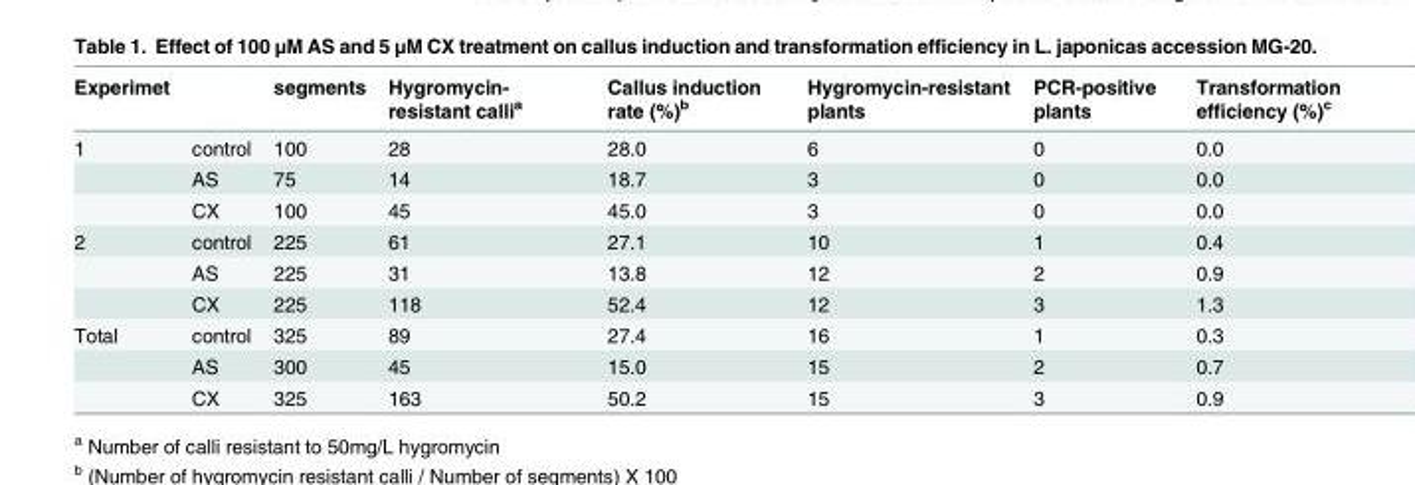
<table><thead><tr><td>Experimet</td><td></td><td>segments</td><td>Hygromycin- resistant calli<sup>a</sup></td><td>Callus induction rate (%)<sup>b</sup></td><td>Hygromycin-resistant plants</td><td>PCR-positive plants</td><td>Transformation efficiency (%)<sup>c</sup></td></tr></thead><tbody><tr><td rowspan="3">1</td><td>control</td><td>100</td><td>28</td><td>28.0</td><td>6</td><td>0</td><td>0.0</td></tr><tr><td>AS</td><td>75</td><td>14</td><td>18.7</td><td>3</td><td>0</td><td>0.0</td></tr><tr><td>CX</td><td>100</td><td>45</td><td>45.0</td><td>3</td><td>0</td><td>0.0</td></tr><tr><td rowspan="3">2</td><td>control</td><td>225</td><td>61</td><td>27.1</td><td>10</td><td>1</td><td>0.4</td></tr><tr><td>AS</td><td>225</td><td>31</td><td>13.8</td><td>12</td><td>2</td><td>0.9</td></tr><tr><td>CX</td><td>225</td><td>118</td><td>52.4</td><td>12</td><td>3</td><td>1.3</td></tr><tr><td rowspan="3">Total</td><td>control</td><td>325</td><td>89</td><td>27.4</td><td>16</td><td>1</td><td>0.3</td></tr><tr><td>AS</td><td>300</td><td>45</td><td>15.0</td><td>15</td><td>2</td><td>0.7</td></tr><tr><td>CX</td><td>325</td><td>163</td><td>50.2</td><td>15</td><td>3</td><td>0.9</td></tr></tbody></table>